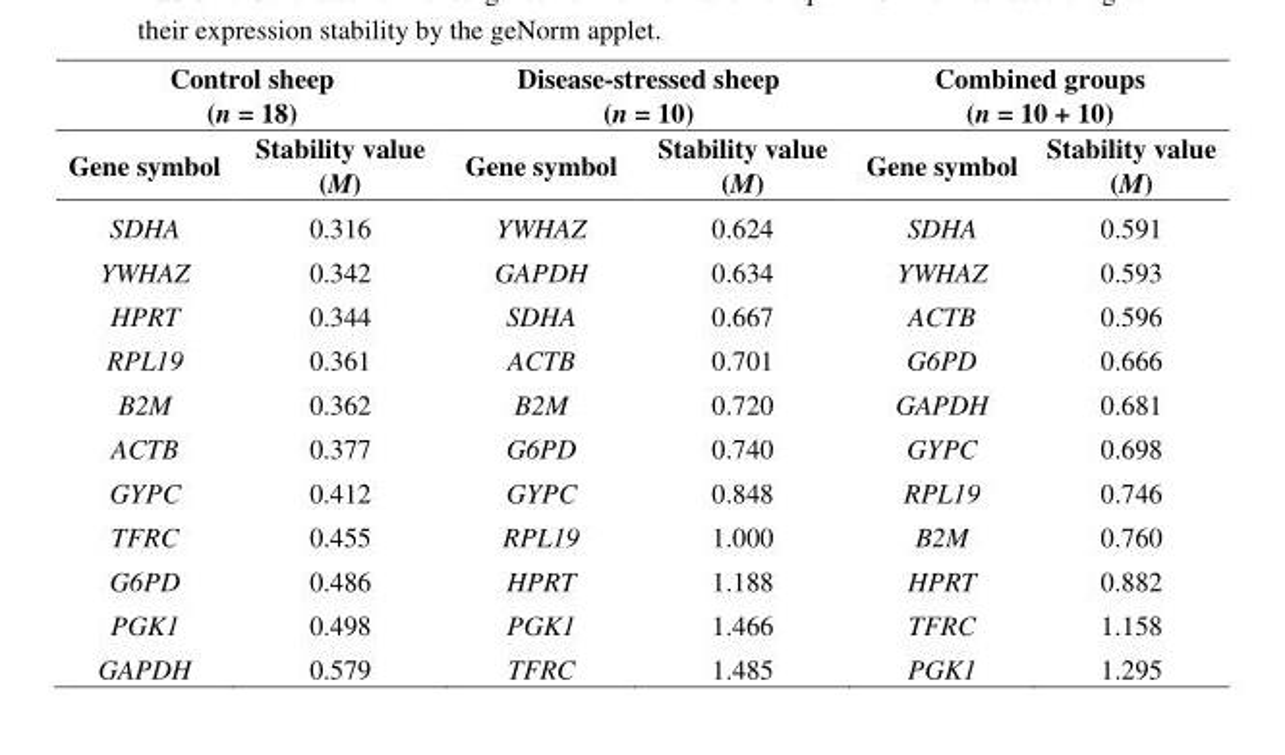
<table><thead><tr><td colspan="2">Control sheep (n = 18)</td><td colspan="2">Disease-stressed sheep (n = 10)</td><td colspan="2">Combined groups (n = 10 + 10)</td></tr><tr><td>Gene symbol</td><td>Stability value (M)</td><td>Gene symbol</td><td>Stability value (M)</td><td>Gene symbol</td><td>Stability value (M)</td></tr></thead><tbody><tr><td>SDHA</td><td>0.316</td><td>YWHAZ</td><td>0.624</td><td>SDHA</td><td>0.591</td></tr><tr><td>YWHAZ</td><td>0.342</td><td>GAPDH</td><td>0.634</td><td>YWHAZ</td><td>0.593</td></tr><tr><td>HPRT</td><td>0.344</td><td>SDHA</td><td>0.667</td><td>ACTB</td><td>0.596</td></tr><tr><td>RPL19</td><td>0.361</td><td>ACTB</td><td>0.701</td><td>G6PD</td><td>0.666</td></tr><tr><td>B2M</td><td>0.362</td><td>B2M</td><td>0.720</td><td>GAPDH</td><td>0.681</td></tr><tr><td>ACTB</td><td>0.377</td><td>G6PD</td><td>0.740</td><td>GYPC</td><td>0.698</td></tr><tr><td>GYPC</td><td>0.412</td><td>GYPC</td><td>0.848</td><td>RPL19</td><td>0.746</td></tr><tr><td>TFRC</td><td>0.455</td><td>RPL19</td><td>1.000</td><td>B2M</td><td>0.760</td></tr><tr><td>G6PD</td><td>0.486</td><td>HPRT</td><td>1.188</td><td>HPRT</td><td>0.882</td></tr><tr><td>PGK1</td><td>0.498</td><td>PGK1</td><td>1.466</td><td>TFRC</td><td>1.158</td></tr><tr><td>GAPDH</td><td>0.579</td><td>TFRC</td><td>1.485</td><td>PGK1</td><td>1.295</td></tr></tbody></table>